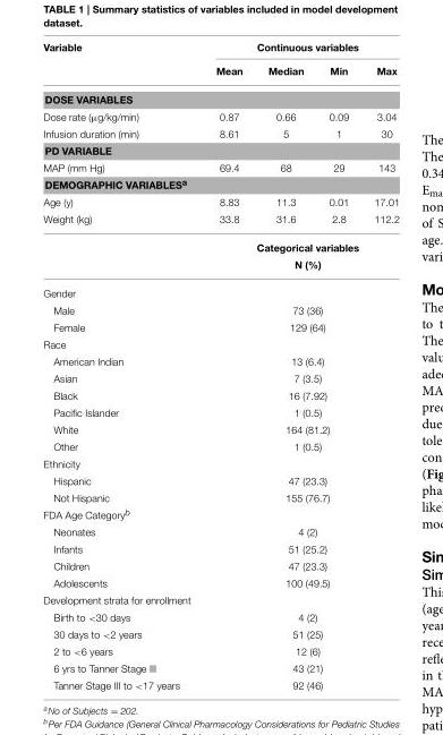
<table><thead><tr><td rowspan="2">Variable</td><td colspan="4">Continuous variables</td></tr><tr><td>Mean</td><td>Median</td><td>Min</td><td>Max</td></tr></thead><tbody><tr><td colspan="5">DOSE VARIABLES</td></tr><tr><td>Dose rate (µg/kg/min)</td><td>0.87</td><td>0.66</td><td>0.09</td><td>3.04</td></tr><tr><td>Infusion duration (min)</td><td>8.61</td><td>5</td><td>1</td><td>30</td></tr><tr><td colspan="5">PD VARIABLE</td></tr><tr><td>MAP (mm Hg)</td><td>69.4</td><td>68</td><td>29</td><td>143</td></tr><tr><td colspan="5">DEMOGRAPHIC VARIABLES<sup>a</sup></td></tr><tr><td>Age (y)</td><td>8.83</td><td>11.3</td><td>0.01</td><td>17.01</td></tr><tr><td rowspan="2">Weight (kg)</td><td>33.8</td><td>31.6</td><td>2.8</td><td>112.2</td></tr><tr><td colspan="4">Categorical variables N (%)</td></tr><tr><td colspan="5">Gender</td></tr><tr><td>Male</td><td colspan="4">73 (36)</td></tr><tr><td>Female</td><td colspan="4">129 (64)</td></tr><tr><td colspan="5">Race</td></tr><tr><td>American Indian</td><td colspan="4">13 (6.4)</td></tr><tr><td>Asian</td><td colspan="4">7 (3.5)</td></tr><tr><td>Black</td><td colspan="4">16 (7.92)</td></tr><tr><td>Pacific Islander</td><td colspan="4">1 (0.5)</td></tr><tr><td>White</td><td colspan="4">164 (81.2)</td></tr><tr><td>Other</td><td colspan="4">1 (0.5)</td></tr><tr><td colspan="5">Ethnicity</td></tr><tr><td>Hispanic</td><td colspan="4">47 (23.3)</td></tr><tr><td>Not Hispanic</td><td colspan="4">155 (76.7)</td></tr><tr><td colspan="5">FDA Age Category<sup>b</sup></td></tr><tr><td>Neonates</td><td colspan="4">4 (2)</td></tr><tr><td>Infants</td><td colspan="4">51 (25.2)</td></tr><tr><td>Children</td><td colspan="4">47 (23.3)</td></tr><tr><td>Adolescents</td><td colspan="4">100 (49.5)</td></tr><tr><td colspan="5">Development strata for enrollment</td></tr><tr><td>Birth to &lt;30 days</td><td colspan="4">4 (2)</td></tr><tr><td>30 days to &lt;2 years</td><td colspan="4">51 (25)</td></tr><tr><td>2 to &lt;6 years</td><td colspan="4">12 (6)</td></tr><tr><td>6 yrs to Tanner Stage III</td><td colspan="4">43 (21)</td></tr><tr><td>Tanner Stage III to &lt;17 years</td><td colspan="4">92 (46)</td></tr></tbody></table>